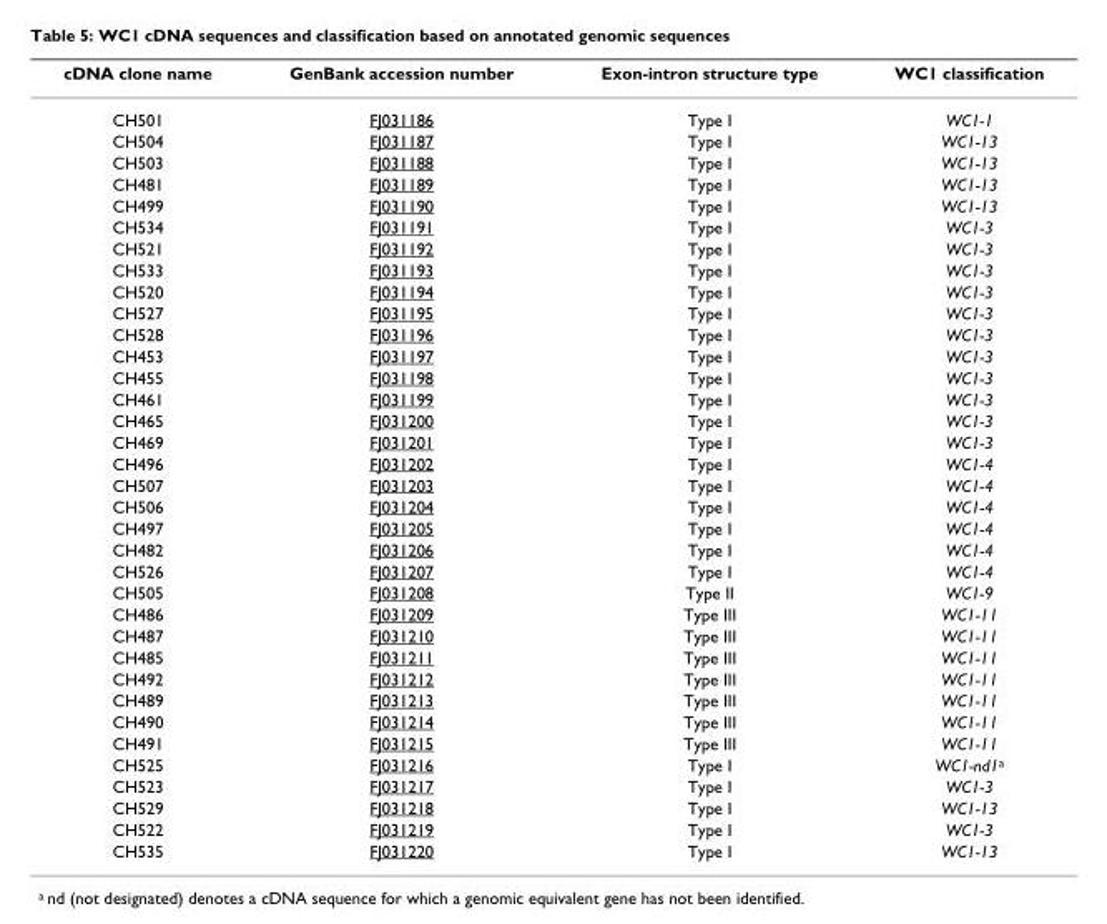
<table><thead><tr><td>cDNA clone name</td><td>GenBank accession number</td><td>Exon-intron structure type</td><td>WC1 classification</td></tr></thead><tbody><tr><td>CH501</td><td>FJ031186</td><td>Type I</td><td>WC1-1</td></tr><tr><td>CH504</td><td>FJ031187</td><td>Type I</td><td>WC1-13</td></tr><tr><td>CH503</td><td>FJ031188</td><td>Type I</td><td>WC1-13</td></tr><tr><td>CH481</td><td>FJ031189</td><td>Type I</td><td>WC1-13</td></tr><tr><td>CH499</td><td>FJ031190</td><td>Type I</td><td>WC1-13</td></tr><tr><td>CH534</td><td>FJ031191</td><td>Type I</td><td>WC1-3</td></tr><tr><td>CH521</td><td>FJ031192</td><td>Type I</td><td>WC1-3</td></tr><tr><td>CH533</td><td>FJ031193</td><td>Type I</td><td>WC1-3</td></tr><tr><td>CH520</td><td>FJ031194</td><td>Type I</td><td>WC1-3</td></tr><tr><td>CH527</td><td>FJ031195</td><td>Type I</td><td>WC1-3</td></tr><tr><td>CH528</td><td>FJ031196</td><td>Type I</td><td>WC1-3</td></tr><tr><td>CH453</td><td>FJ031197</td><td>Type I</td><td>WC1-3</td></tr><tr><td>CH455</td><td>FJ031198</td><td>Type I</td><td>WC1-3</td></tr><tr><td>CH461</td><td>FJ031199</td><td>Type I</td><td>WC1-3</td></tr><tr><td>CH465</td><td>FJ031200</td><td>Type I</td><td>WC1-3</td></tr><tr><td>CH469</td><td>FJ031201</td><td>Type I</td><td>WC1-3</td></tr><tr><td>CH496</td><td>FJ031202</td><td>Type I</td><td>WC1-4</td></tr><tr><td>CH507</td><td>FJ031203</td><td>Type I</td><td>WC1-4</td></tr><tr><td>CH506</td><td>FJ031204</td><td>Type I</td><td>WC1-4</td></tr><tr><td>CH497</td><td>FJ031205</td><td>Type I</td><td>WC1-4</td></tr><tr><td>CH482</td><td>FJ031206</td><td>Type I</td><td>WC1-4</td></tr><tr><td>CH526</td><td>FJ031207</td><td>Type I</td><td>WC1-4</td></tr><tr><td>CH505</td><td>FJ031208</td><td>Type II</td><td>WC1-9</td></tr><tr><td>CH486</td><td>FJ031209</td><td>Type III</td><td>WC1-11</td></tr><tr><td>CH487</td><td>FJ031210</td><td>Type III</td><td>WC1-11</td></tr><tr><td>CH485</td><td>FJ031211</td><td>Type III</td><td>WC1-11</td></tr><tr><td>CH492</td><td>FJ031212</td><td>Type III</td><td>WC1-11</td></tr><tr><td>CH489</td><td>FJ031213</td><td>Type III</td><td>WC1-11</td></tr><tr><td>CH490</td><td>FJ031214</td><td>Type III</td><td>WC1-11</td></tr><tr><td>CH491</td><td>FJ031215</td><td>Type III</td><td>WC1-11</td></tr><tr><td>CH525</td><td>FJ031216</td><td>Type I</td><td>WC1-nd1<sup>a</sup></td></tr><tr><td>CH523</td><td>FJ031217</td><td>Type I</td><td>WC1-3</td></tr><tr><td>CH529</td><td>FJ031218</td><td>Type I</td><td>WC1-13</td></tr><tr><td>CH522</td><td>FJ031219</td><td>Type I</td><td>WC1-3</td></tr><tr><td>CH535</td><td>FJ031220</td><td>Type I</td><td>WC1-13</td></tr></tbody></table>